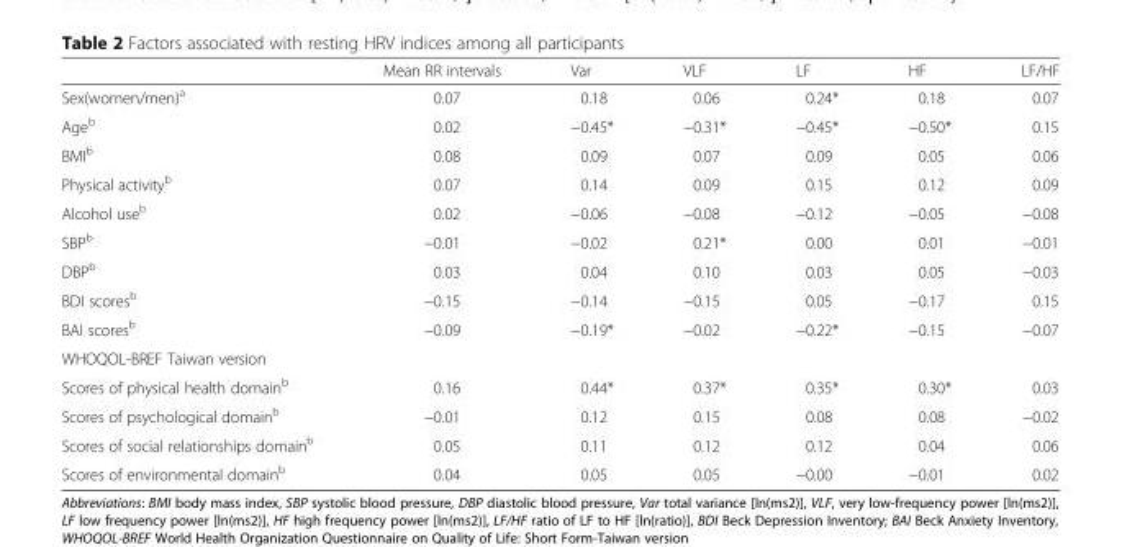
<table><thead><tr><td></td><td>Mean RR intervals</td><td>Var</td><td>VLF</td><td>LF</td><td>HF</td><td>LF/HF</td></tr></thead><tbody><tr><td>Sex(women/men)<sup>a</sup></td><td>0.07</td><td>0.18</td><td>0.06</td><td>0.24*</td><td>0.18</td><td>0.07</td></tr><tr><td>Age<sup>b</sup></td><td>0.02</td><td>−0.45*</td><td>−0.31*</td><td>−0.45*</td><td>−0.50*</td><td>0.15</td></tr><tr><td>BMI<sup>b</sup></td><td>0.08</td><td>0.09</td><td>0.07</td><td>0.09</td><td>0.05</td><td>0.06</td></tr><tr><td>Physical activity<sup>b</sup></td><td>0.07</td><td>0.14</td><td>0.09</td><td>0.15</td><td>0.12</td><td>0.09</td></tr><tr><td>Alcohol use<sup>b</sup></td><td>0.02</td><td>−0.06</td><td>−0.08</td><td>−0.12</td><td>−0.05</td><td>−0.08</td></tr><tr><td>SBP<sup>b</sup></td><td>−0.01</td><td>−0.02</td><td>0.21*</td><td>0.00</td><td>0.01</td><td>−0.01</td></tr><tr><td>DBP<sup>b</sup></td><td>0.03</td><td>0.04</td><td>0.10</td><td>0.03</td><td>0.05</td><td>−0.03</td></tr><tr><td>BDI scores<sup>b</sup></td><td>−0.15</td><td>−0.14</td><td>−0.15</td><td>0.05</td><td>−0.17</td><td>0.15</td></tr><tr><td>BAI scores<sup>b</sup></td><td>−0.09</td><td>−0.19*</td><td>−0.02</td><td>−0.22*</td><td>−0.15</td><td>−0.07</td></tr><tr><td colspan="7">WHOQOL-BREF Taiwan version</td></tr><tr><td>Scores of physical health domain<sup>b</sup></td><td>0.16</td><td>0.44*</td><td>0.37*</td><td>0.35*</td><td>0.30*</td><td>0.03</td></tr><tr><td>Scores of psychological domain<sup>b</sup></td><td>−0.01</td><td>0.12</td><td>0.15</td><td>0.08</td><td>0.08</td><td>−0.02</td></tr><tr><td>Scores of social relationships domain<sup>b</sup></td><td>0.05</td><td>0.11</td><td>0.12</td><td>0.12</td><td>0.04</td><td>0.06</td></tr><tr><td>Scores of environmental domain<sup>b</sup></td><td>0.04</td><td>0.05</td><td>0.05</td><td>−0.00</td><td>−0.01</td><td>0.02</td></tr></tbody></table>